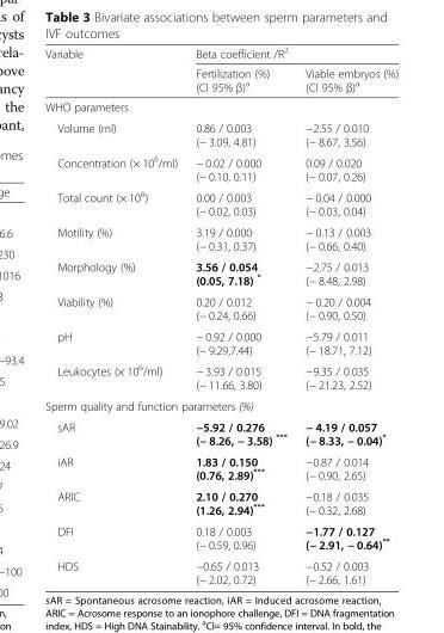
<table><thead><tr><td rowspan="2">Variable</td><td colspan="2">Beta coefficient /R<sup>2</sup></td></tr><tr><td>Fertilization (%) (CI 95% β)<sup>a</sup></td><td>Viable embryos (%) (CI 95% β)<sup>a</sup></td></tr></thead><tbody><tr><td colspan="3">WHO parameters</td></tr><tr><td>Volume (ml)</td><td>0.86 / 0.003 (− 3.09, 4.81)</td><td>−2.55 / 0.010 (− 8.67, 3.56)</td></tr><tr><td>Concentration (× 10<sup>6</sup>/ml)</td><td>− 0.02 / 0.000 (− 0.10, 0.11)</td><td>0.09 / 0.020 (− 0.07, 0.26)</td></tr><tr><td>Total count (× 10<sup>6</sup>)</td><td>0.00 / 0.003 (− 0.02, 0.03)</td><td>− 0.04 / 0.000 (− 0.03, 0.04)</td></tr><tr><td>Motility (%)</td><td>3.19 / 0.000 (− 0.31, 0.37)</td><td>− 0.13 / 0.003 (− 0.66, 0.40)</td></tr><tr><td>Morphology (%)</td><td>3.56 / 0.054 (0.05, 7.18) *</td><td>−2.75 / 0.013 (− 8.48, 2.98)</td></tr><tr><td>Viability (%)</td><td>0.20 / 0.012 (− 0.24, 0.66)</td><td>− 0.20 / 0.004 (− 0.90, 0.50)</td></tr><tr><td>pH</td><td>− 0.92 / 0.000 (− 9.29,7.44)</td><td>−5.79 / 0.011 (− 18.71, 7.12)</td></tr><tr><td>Leukocytes (× 10<sup>6</sup>/ml)</td><td>− 3.93 / 0.015 (− 11.66, 3.80)</td><td>−9.35 / 0.035 (− 21.23, 2.52)</td></tr><tr><td colspan="3">Sperm quality and function parameters (%)</td></tr><tr><td>sAR</td><td>−5.92 / 0.276 (− 8.26, − 3.58) ***</td><td>− 4.19 / 0.057 (− 8.33, − 0.04)*</td></tr><tr><td>iAR</td><td>1.83 / 0.150 (0.76, 2.89)***</td><td>−0.87 / 0.014 (− 0.90, 2.65)</td></tr><tr><td>ARIC</td><td>2.10 / 0.270 (1.26, 2.94)***</td><td>−0.18 / 0.035 (− 0.32, 2.68)</td></tr><tr><td>DFI</td><td>0.18 / 0.003 (− 0.59, 0.96)</td><td>−1.77 / 0.127 (− 2.91, − 0.64)**</td></tr><tr><td>HDS</td><td>−0.65 / 0.013 (− 2.02, 0.72)</td><td>−0.52 / 0.003 (− 2.66, 1.61)</td></tr></tbody></table>